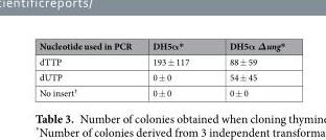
<table><thead><tr><td>Nucleotide used in PCR</td><td>DH5α*</td><td>DH5α Δung*</td></tr></thead><tbody><tr><td>dTTP</td><td>193 ± 117</td><td>88 ± 59</td></tr><tr><td>dUTP</td><td>0 ± 0</td><td>54 ± 45</td></tr><tr><td>No insert<sup>†</sup></td><td>0 ± 0</td><td>0 ± 0</td></tr></tbody></table>